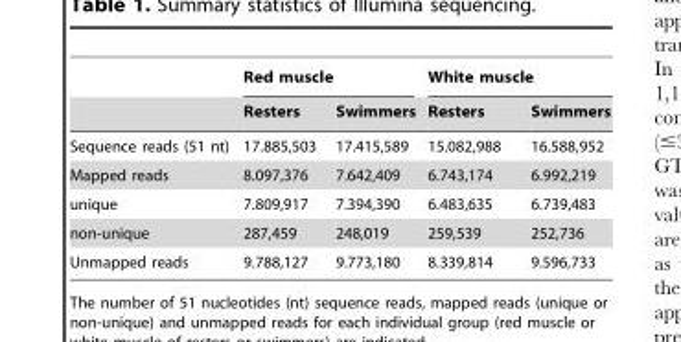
<table><thead><tr><td rowspan="2"></td><td colspan="2">Red muscle</td><td colspan="2">White muscle</td></tr><tr><td>Resters</td><td>Swimmers</td><td>Resters</td><td>Swimmers</td></tr></thead><tbody><tr><td>Sequence reads (51 nt)</td><td>17.885,503</td><td>17.415,589</td><td>15.082,988</td><td>16.588,952</td></tr><tr><td>Mapped reads</td><td>8.097,376</td><td>7.642,409</td><td>6.743,174</td><td>6.992,219</td></tr><tr><td>unique</td><td>7.809,917</td><td>7.394,390</td><td>6.483,635</td><td>6.739,483</td></tr><tr><td>non-unique</td><td>287,459</td><td>248,019</td><td>259,539</td><td>252,736</td></tr><tr><td>Unmapped reads</td><td>9.788,127</td><td>9.773,180</td><td>8.339,814</td><td>9.596,733</td></tr></tbody></table>